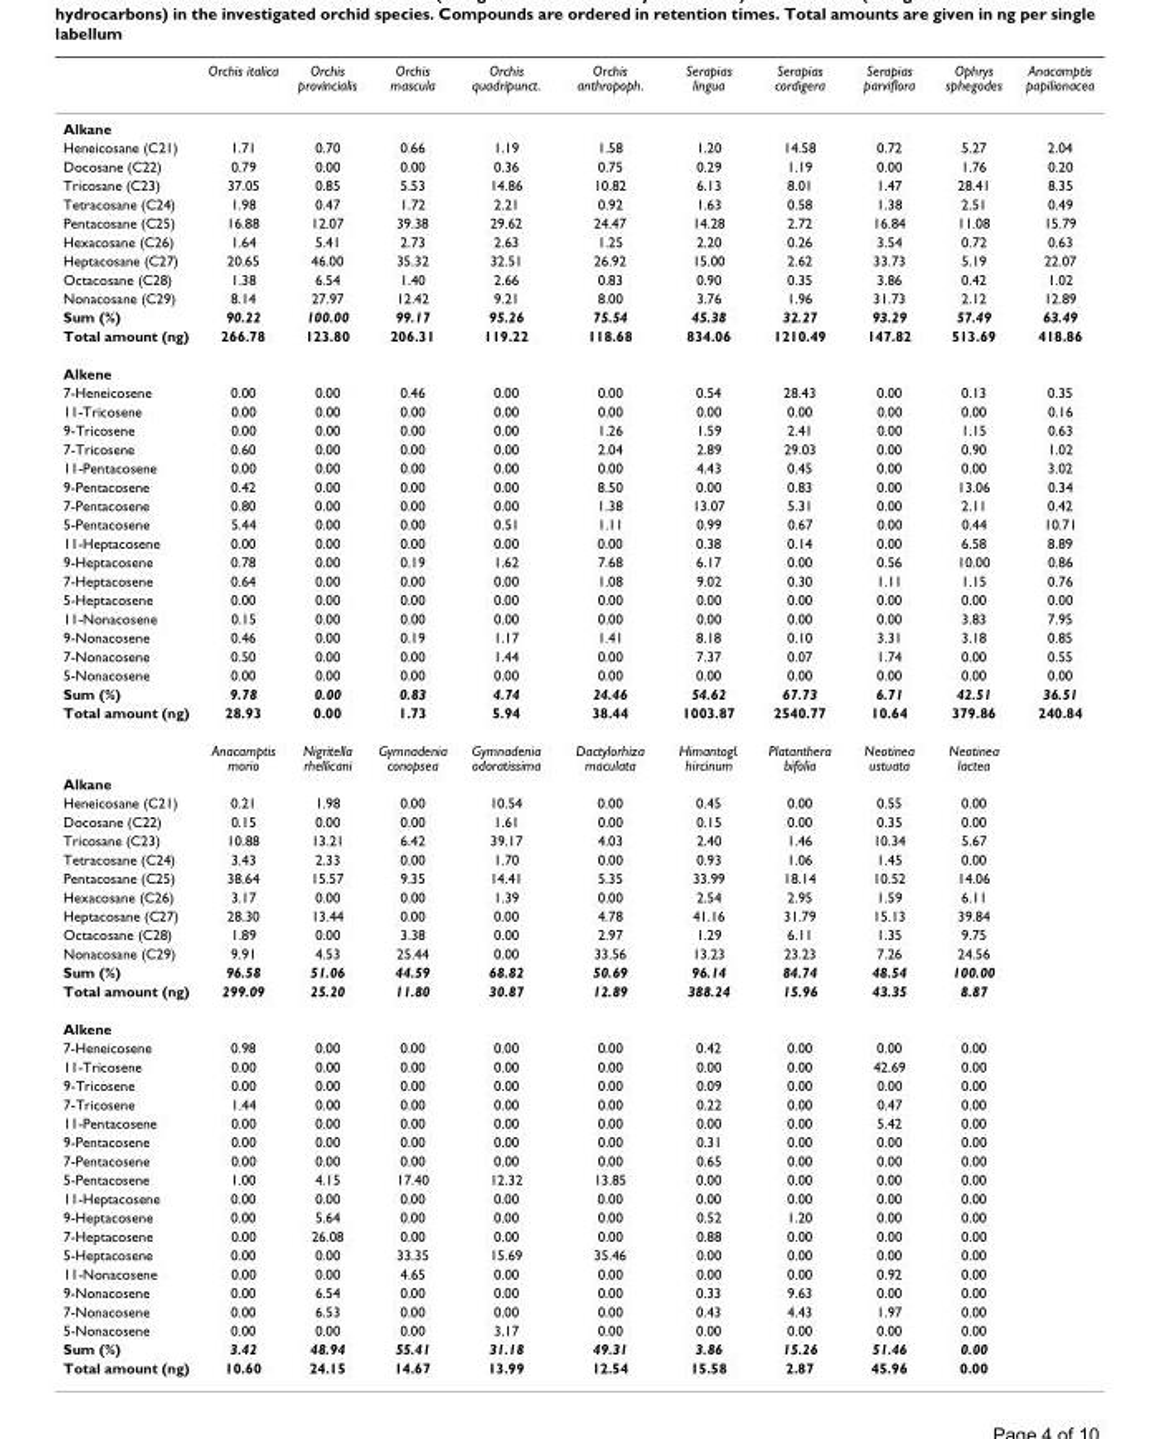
<table><thead><tr><td></td><td>Orchis italica</td><td>Orchis provincialis</td><td>Orchis mascula</td><td>Orchis quadripunct.</td><td>Orchis anthropoph.</td><td>Serapias lingua</td><td>Serapias cordigera</td><td>Serapias parviflora</td><td>Ophrys sphegodes</td><td>Anacamptis papilionacea</td></tr></thead><tbody><tr><td colspan="11">Alkane</td></tr><tr><td>Heneicosane (C21)</td><td>1.71</td><td>0.70</td><td>0.66</td><td>1.19</td><td>1.58</td><td>1.20</td><td>14.58</td><td>0.72</td><td>5.27</td><td>2.04</td></tr><tr><td>Docosane (C22)</td><td>0.79</td><td>0.00</td><td>0.00</td><td>0.36</td><td>0.75</td><td>0.29</td><td>1.19</td><td>0.00</td><td>1.76</td><td>0.20</td></tr><tr><td>Tricosane (C23)</td><td>37.05</td><td>0.85</td><td>5.53</td><td>14.86</td><td>10.82</td><td>6.13</td><td>8.01</td><td>1.47</td><td>28.41</td><td>8.35</td></tr><tr><td>Tetracosane (C24)</td><td>1.98</td><td>0.47</td><td>1.72</td><td>2.21</td><td>0.92</td><td>1.63</td><td>0.58</td><td>1.38</td><td>2.51</td><td>0.49</td></tr><tr><td>Pentacosane (C25)</td><td>16.88</td><td>12.07</td><td>39.38</td><td>29.62</td><td>24.47</td><td>14.28</td><td>2.72</td><td>16.84</td><td>11.08</td><td>15.79</td></tr><tr><td>Hexacosane (C26)</td><td>1.64</td><td>5.41</td><td>2.73</td><td>2.63</td><td>1.25</td><td>2.20</td><td>0.26</td><td>3.54</td><td>0.72</td><td>0.63</td></tr><tr><td>Heptacosane (C27)</td><td>20.65</td><td>46.00</td><td>35.32</td><td>32.51</td><td>26.92</td><td>15.00</td><td>2.62</td><td>33.73</td><td>5.19</td><td>22.07</td></tr><tr><td>Octacosane (C28)</td><td>1.38</td><td>6.54</td><td>1.40</td><td>2.66</td><td>0.83</td><td>0.90</td><td>0.35</td><td>3.86</td><td>0.42</td><td>1.02</td></tr><tr><td>Nonacosane (C29)</td><td>8.14</td><td>27.97</td><td>12.42</td><td>9.21</td><td>8.00</td><td>3.76</td><td>1.96</td><td>31.73</td><td>2.12</td><td>12.89</td></tr><tr><td>Sum (%)</td><td>90.22</td><td>100.00</td><td>99.17</td><td>95.26</td><td>75.54</td><td>45.38</td><td>32.27</td><td>93.29</td><td>57.49</td><td>63.49</td></tr><tr><td>Total amount (ng)</td><td>266.78</td><td>123.80</td><td>206.31</td><td>119.22</td><td>118.68</td><td>834.06</td><td>1210.49</td><td>147.82</td><td>513.69</td><td>418.86</td></tr><tr><td colspan="11">Alkene</td></tr><tr><td>7-Heneicosene</td><td>0.00</td><td>0.00</td><td>0.46</td><td>0.00</td><td>0.00</td><td>0.54</td><td>28.43</td><td>0.00</td><td>0.13</td><td>0.35</td></tr><tr><td>11-Tricosene</td><td>0.00</td><td>0.00</td><td>0.00</td><td>0.00</td><td>0.00</td><td>0.00</td><td>0.00</td><td>0.00</td><td>0.00</td><td>0.16</td></tr><tr><td>9-Tricosene</td><td>0.00</td><td>0.00</td><td>0.00</td><td>0.00</td><td>1.26</td><td>1.59</td><td>2.41</td><td>0.00</td><td>1.15</td><td>0.63</td></tr><tr><td>7-Tricosene</td><td>0.60</td><td>0.00</td><td>0.00</td><td>0.00</td><td>2.04</td><td>2.89</td><td>29.03</td><td>0.00</td><td>0.90</td><td>1.02</td></tr><tr><td>11-Pentacosene</td><td>0.00</td><td>0.00</td><td>0.00</td><td>0.00</td><td>0.00</td><td>4.43</td><td>0.45</td><td>0.00</td><td>0.00</td><td>3.02</td></tr><tr><td>9-Pentacosene</td><td>0.42</td><td>0.00</td><td>0.00</td><td>0.00</td><td>8.50</td><td>0.00</td><td>0.83</td><td>0.00</td><td>13.06</td><td>0.34</td></tr><tr><td>7-Pentacosene</td><td>0.80</td><td>0.00</td><td>0.00</td><td>0.00</td><td>1.38</td><td>13.07</td><td>5.31</td><td>0.00</td><td>2.11</td><td>0.42</td></tr><tr><td>5-Pentacosene</td><td>5.44</td><td>0.00</td><td>0.00</td><td>0.51</td><td>1.11</td><td>0.99</td><td>0.67</td><td>0.00</td><td>0.44</td><td>10.71</td></tr><tr><td>11-Heptacosene</td><td>0.00</td><td>0.00</td><td>0.00</td><td>0.00</td><td>0.00</td><td>0.38</td><td>0.14</td><td>0.00</td><td>6.58</td><td>8.89</td></tr><tr><td>9-Heptacosene</td><td>0.78</td><td>0.00</td><td>0.19</td><td>1.62</td><td>7.68</td><td>6.17</td><td>0.00</td><td>0.56</td><td>10.00</td><td>0.86</td></tr><tr><td>7-Heptacosene</td><td>0.64</td><td>0.00</td><td>0.00</td><td>0.00</td><td>1.08</td><td>9.02</td><td>0.30</td><td>1.11</td><td>1.15</td><td>0.76</td></tr><tr><td>5-Heptacosene</td><td>0.00</td><td>0.00</td><td>0.00</td><td>0.00</td><td>0.00</td><td>0.00</td><td>0.00</td><td>0.00</td><td>0.00</td><td>0.00</td></tr><tr><td>11-Nonacosene</td><td>0.15</td><td>0.00</td><td>0.00</td><td>0.00</td><td>0.00</td><td>0.00</td><td>0.00</td><td>0.00</td><td>3.83</td><td>7.95</td></tr><tr><td>9-Nonacosene</td><td>0.46</td><td>0.00</td><td>0.19</td><td>1.17</td><td>1.41</td><td>8.18</td><td>0.10</td><td>3.31</td><td>3.18</td><td>0.85</td></tr><tr><td>7-Nonacosene</td><td>0.50</td><td>0.00</td><td>0.00</td><td>1.44</td><td>0.00</td><td>7.37</td><td>0.07</td><td>1.74</td><td>0.00</td><td>0.55</td></tr><tr><td>5-Nonacosene</td><td>0.00</td><td>0.00</td><td>0.00</td><td>0.00</td><td>0.00</td><td>0.00</td><td>0.00</td><td>0.00</td><td>0.00</td><td>0.00</td></tr><tr><td>Sum (%)</td><td>9.78</td><td>0.00</td><td>0.83</td><td>4.74</td><td>24.46</td><td>54.62</td><td>67.73</td><td>6.71</td><td>42.51</td><td>36.51</td></tr><tr><td rowspan="2">Total amount (ng)</td><td>28.93</td><td>0.00</td><td>1.73</td><td>5.94</td><td>38.44</td><td>1003.87</td><td>2540.77</td><td>10.64</td><td>379.86</td><td>240.84</td></tr><tr><td>Anacamptis morio</td><td>Nigritella rhellicani</td><td>Gymnadenia conopsea</td><td>Gymnadenia odoratissima</td><td>Dactylorhiza maculata</td><td>Himantogl. hircinum</td><td>Platanthera bifolia</td><td>Neotinea ustuata</td><td>Neotinea lactea</td><td></td></tr><tr><td colspan="11">Alkane</td></tr><tr><td>Heneicosane (C21)</td><td>0.21</td><td>1.98</td><td>0.00</td><td>10.54</td><td>0.00</td><td>0.45</td><td>0.00</td><td>0.55</td><td>0.00</td><td></td></tr><tr><td>Docosane (C22)</td><td>0.15</td><td>0.00</td><td>0.00</td><td>1.61</td><td>0.00</td><td>0.15</td><td>0.00</td><td>0.35</td><td>0.00</td><td></td></tr><tr><td>Tricosane (C23)</td><td>10.88</td><td>13.21</td><td>6.42</td><td>39.17</td><td>4.03</td><td>2.40</td><td>1.46</td><td>10.34</td><td>5.67</td><td></td></tr><tr><td>Tetracosane (C24)</td><td>3.43</td><td>2.33</td><td>0.00</td><td>1.70</td><td>0.00</td><td>0.93</td><td>1.06</td><td>1.45</td><td>0.00</td><td></td></tr><tr><td>Pentacosane (C25)</td><td>38.64</td><td>15.57</td><td>9.35</td><td>14.41</td><td>5.35</td><td>33.99</td><td>18.14</td><td>10.52</td><td>14.06</td><td></td></tr><tr><td>Hexacosane (C26)</td><td>3.17</td><td>0.00</td><td>0.00</td><td>1.39</td><td>0.00</td><td>2.54</td><td>2.95</td><td>1.59</td><td>6.11</td><td></td></tr><tr><td>Heptacosane (C27)</td><td>28.30</td><td>13.44</td><td>0.00</td><td>0.00</td><td>4.78</td><td>41.16</td><td>31.79</td><td>15.13</td><td>39.84</td><td></td></tr><tr><td>Octacosane (C28)</td><td>1.89</td><td>0.00</td><td>3.38</td><td>0.00</td><td>2.97</td><td>1.29</td><td>6.11</td><td>1.35</td><td>9.75</td><td></td></tr><tr><td>Nonacosane (C29)</td><td>9.91</td><td>4.53</td><td>25.44</td><td>0.00</td><td>33.56</td><td>13.23</td><td>23.23</td><td>7.26</td><td>24.56</td><td></td></tr><tr><td>Sum (%)</td><td>96.58</td><td>51.06</td><td>44.59</td><td>68.82</td><td>50.69</td><td>96.14</td><td>84.74</td><td>48.54</td><td>100.00</td><td></td></tr><tr><td>Total amount (ng)</td><td>299.09</td><td>25.20</td><td>11.80</td><td>30.87</td><td>12.89</td><td>388.24</td><td>15.96</td><td>43.35</td><td>8.87</td><td></td></tr><tr><td colspan="11">Alkene</td></tr><tr><td>7-Heneicosene</td><td>0.98</td><td>0.00</td><td>0.00</td><td>0.00</td><td>0.00</td><td>0.42</td><td>0.00</td><td>0.00</td><td>0.00</td><td></td></tr><tr><td>11-Tricosene</td><td>0.00</td><td>0.00</td><td>0.00</td><td>0.00</td><td>0.00</td><td>0.00</td><td>0.00</td><td>42.69</td><td>0.00</td><td></td></tr><tr><td>9-Tricosene</td><td>0.00</td><td>0.00</td><td>0.00</td><td>0.00</td><td>0.00</td><td>0.09</td><td>0.00</td><td>0.00</td><td>0.00</td><td></td></tr><tr><td>7-Tricosene</td><td>1.44</td><td>0.00</td><td>0.00</td><td>0.00</td><td>0.00</td><td>0.22</td><td>0.00</td><td>0.47</td><td>0.00</td><td></td></tr><tr><td>11-Pentacosene</td><td>0.00</td><td>0.00</td><td>0.00</td><td>0.00</td><td>0.00</td><td>0.00</td><td>0.00</td><td>5.42</td><td>0.00</td><td></td></tr><tr><td>9-Pentacosene</td><td>0.00</td><td>0.00</td><td>0.00</td><td>0.00</td><td>0.00</td><td>0.31</td><td>0.00</td><td>0.00</td><td>0.00</td><td></td></tr><tr><td>7-Pentacosene</td><td>0.00</td><td>0.00</td><td>0.00</td><td>0.00</td><td>0.00</td><td>0.65</td><td>0.00</td><td>0.00</td><td>0.00</td><td></td></tr><tr><td>5-Pentacosene</td><td>1.00</td><td>4.15</td><td>17.40</td><td>12.32</td><td>13.85</td><td>0.00</td><td>0.00</td><td>0.00</td><td>0.00</td><td></td></tr><tr><td>11-Heptacosene</td><td>0.00</td><td>0.00</td><td>0.00</td><td>0.00</td><td>0.00</td><td>0.00</td><td>0.00</td><td>0.00</td><td>0.00</td><td></td></tr><tr><td>9-Heptacosene</td><td>0.00</td><td>5.64</td><td>0.00</td><td>0.00</td><td>0.00</td><td>0.52</td><td>1.20</td><td>0.00</td><td>0.00</td><td></td></tr><tr><td>7-Heptacosene</td><td>0.00</td><td>26.08</td><td>0.00</td><td>0.00</td><td>0.00</td><td>0.88</td><td>0.00</td><td>0.00</td><td>0.00</td><td></td></tr><tr><td>5-Heptacosene</td><td>0.00</td><td>0.00</td><td>33.35</td><td>15.69</td><td>35.46</td><td>0.00</td><td>0.00</td><td>0.00</td><td>0.00</td><td></td></tr><tr><td>11-Nonacosene</td><td>0.00</td><td>0.00</td><td>4.65</td><td>0.00</td><td>0.00</td><td>0.00</td><td>0.00</td><td>0.92</td><td>0.00</td><td></td></tr><tr><td>9-Nonacosene</td><td>0.00</td><td>6.54</td><td>0.00</td><td>0.00</td><td>0.00</td><td>0.33</td><td>9.63</td><td>0.00</td><td>0.00</td><td></td></tr><tr><td>7-Nonacosene</td><td>0.00</td><td>6.53</td><td>0.00</td><td>0.00</td><td>0.00</td><td>0.43</td><td>4.43</td><td>1.97</td><td>0.00</td><td></td></tr><tr><td>5-Nonacosene</td><td>0.00</td><td>0.00</td><td>0.00</td><td>3.17</td><td>0.00</td><td>0.00</td><td>0.00</td><td>0.00</td><td>0.00</td><td></td></tr><tr><td>Sum (%)</td><td>3.42</td><td>48.94</td><td>55.41</td><td>31.18</td><td>49.31</td><td>3.86</td><td>15.26</td><td>51.46</td><td>0.00</td><td></td></tr><tr><td>Total amount (ng)</td><td>10.60</td><td>24.15</td><td>14.67</td><td>13.99</td><td>12.54</td><td>15.58</td><td>2.87</td><td>45.96</td><td>0.00</td><td></td></tr></tbody></table>